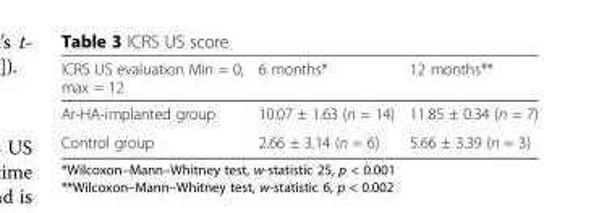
<table><thead><tr><td>ICRS US evaluation Min = 0, max = 12</td><td>6 months*</td><td>12 months**</td></tr></thead><tbody><tr><td>Ar-HA-implanted group</td><td>10.07 ± 1.63 (n = 14)</td><td>11.85 ± 0.34 (n = 7)</td></tr><tr><td>Control group</td><td>2.66 ± 3.14 (n = 6)</td><td>5.66 ± 3.39 (n = 3)</td></tr></tbody></table>